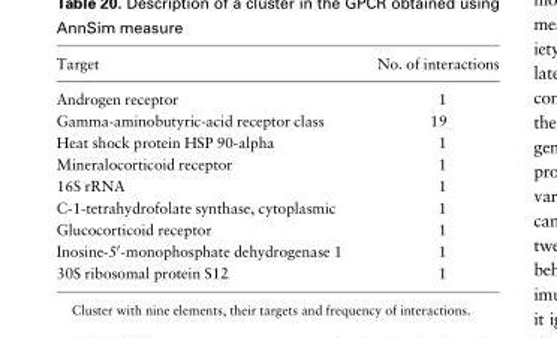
<table><thead><tr><td>Target</td><td>No. of interactions</td></tr></thead><tbody><tr><td>Androgen receptor</td><td>1</td></tr><tr><td>Gamma-aminobutyric-acid receptor class</td><td>19</td></tr><tr><td>Heat shock protein HSP 90-alpha</td><td>1</td></tr><tr><td>Mineralocorticoid receptor</td><td>1</td></tr><tr><td>16S rRNA</td><td>1</td></tr><tr><td>C-1-tetrahydrofolate synthase, cytoplasmic</td><td>1</td></tr><tr><td>Glucocorticoid receptor</td><td>1</td></tr><tr><td>Inosine-5′-monophosphate dehydrogenase 1</td><td>1</td></tr><tr><td>30S ribosomal protein S12</td><td>1</td></tr></tbody></table>